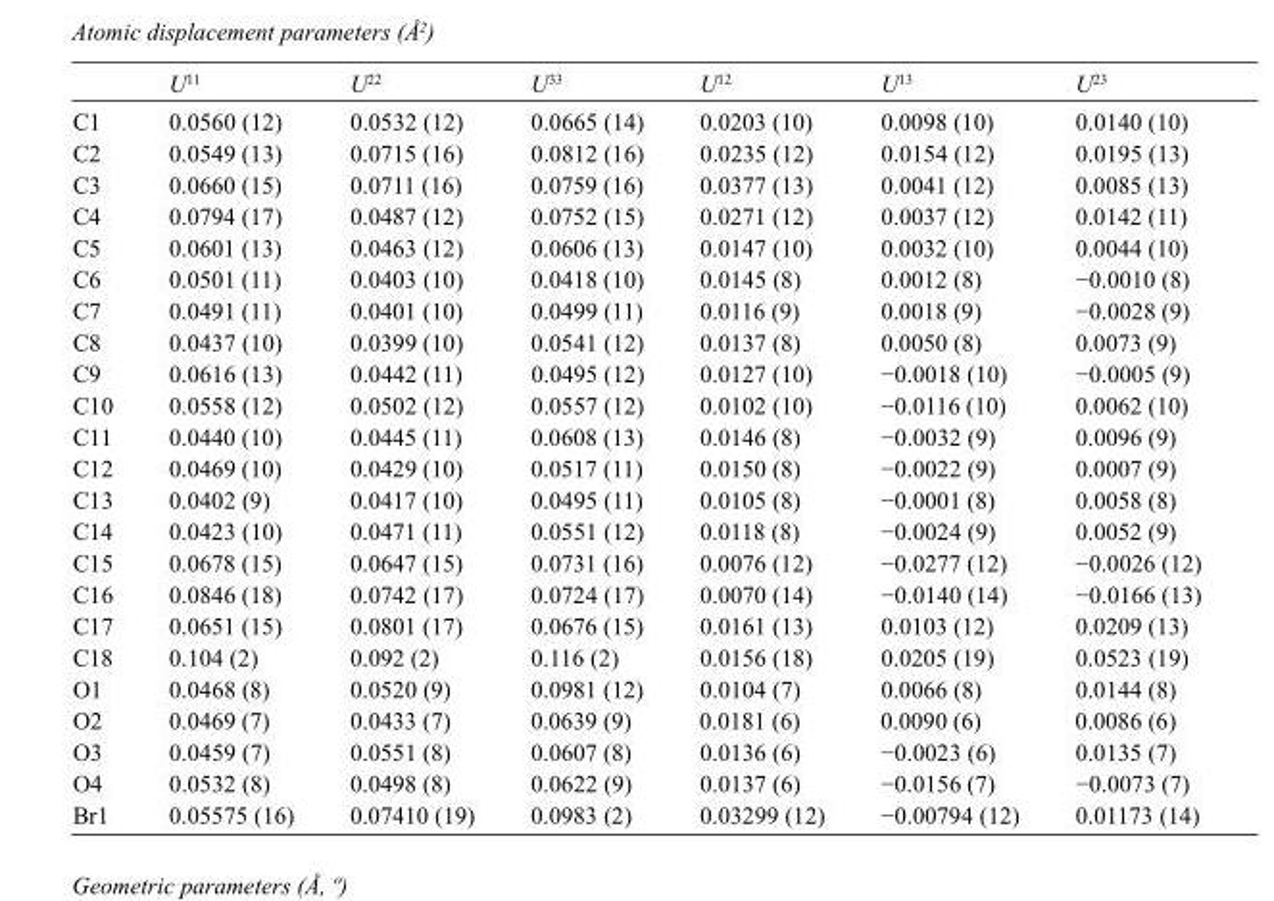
<table><thead><tr><td></td><td>U<sup>11</sup></td><td>U<sup>22</sup></td><td>U<sup>33</sup></td><td>U<sup>12</sup></td><td>U<sup>13</sup></td><td>U<sup>23</sup></td></tr></thead><tbody><tr><td>C1</td><td>0.0560 (12)</td><td>0.0532 (12)</td><td>0.0665 (14)</td><td>0.0203 (10)</td><td>0.0098 (10)</td><td>0.0140 (10)</td></tr><tr><td>C2</td><td>0.0549 (13)</td><td>0.0715 (16)</td><td>0.0812 (16)</td><td>0.0235 (12)</td><td>0.0154 (12)</td><td>0.0195 (13)</td></tr><tr><td>C3</td><td>0.0660 (15)</td><td>0.0711 (16)</td><td>0.0759 (16)</td><td>0.0377 (13)</td><td>0.0041 (12)</td><td>0.0085 (13)</td></tr><tr><td>C4</td><td>0.0794 (17)</td><td>0.0487 (12)</td><td>0.0752 (15)</td><td>0.0271 (12)</td><td>0.0037 (12)</td><td>0.0142 (11)</td></tr><tr><td>C5</td><td>0.0601 (13)</td><td>0.0463 (12)</td><td>0.0606 (13)</td><td>0.0147 (10)</td><td>0.0032 (10)</td><td>0.0044 (10)</td></tr><tr><td>C6</td><td>0.0501 (11)</td><td>0.0403 (10)</td><td>0.0418 (10)</td><td>0.0145 (8)</td><td>0.0012 (8)</td><td>−0.0010 (8)</td></tr><tr><td>C7</td><td>0.0491 (11)</td><td>0.0401 (10)</td><td>0.0499 (11)</td><td>0.0116 (9)</td><td>0.0018 (9)</td><td>−0.0028 (9)</td></tr><tr><td>C8</td><td>0.0437 (10)</td><td>0.0399 (10)</td><td>0.0541 (12)</td><td>0.0137 (8)</td><td>0.0050 (8)</td><td>0.0073 (9)</td></tr><tr><td>C9</td><td>0.0616 (13)</td><td>0.0442 (11)</td><td>0.0495 (12)</td><td>0.0127 (10)</td><td>−0.0018 (10)</td><td>−0.0005 (9)</td></tr><tr><td>C10</td><td>0.0558 (12)</td><td>0.0502 (12)</td><td>0.0557 (12)</td><td>0.0102 (10)</td><td>−0.0116 (10)</td><td>0.0062 (10)</td></tr><tr><td>C11</td><td>0.0440 (10)</td><td>0.0445 (11)</td><td>0.0608 (13)</td><td>0.0146 (8)</td><td>−0.0032 (9)</td><td>0.0096 (9)</td></tr><tr><td>C12</td><td>0.0469 (10)</td><td>0.0429 (10)</td><td>0.0517 (11)</td><td>0.0150 (8)</td><td>−0.0022 (9)</td><td>0.0007 (9)</td></tr><tr><td>C13</td><td>0.0402 (9)</td><td>0.0417 (10)</td><td>0.0495 (11)</td><td>0.0105 (8)</td><td>−0.0001 (8)</td><td>0.0058 (8)</td></tr><tr><td>C14</td><td>0.0423 (10)</td><td>0.0471 (11)</td><td>0.0551 (12)</td><td>0.0118 (8)</td><td>−0.0024 (9)</td><td>0.0052 (9)</td></tr><tr><td>C15</td><td>0.0678 (15)</td><td>0.0647 (15)</td><td>0.0731 (16)</td><td>0.0076 (12)</td><td>−0.0277 (12)</td><td>−0.0026 (12)</td></tr><tr><td>C16</td><td>0.0846 (18)</td><td>0.0742 (17)</td><td>0.0724 (17)</td><td>0.0070 (14)</td><td>−0.0140 (14)</td><td>−0.0166 (13)</td></tr><tr><td>C17</td><td>0.0651 (15)</td><td>0.0801 (17)</td><td>0.0676 (15)</td><td>0.0161 (13)</td><td>0.0103 (12)</td><td>0.0209 (13)</td></tr><tr><td>C18</td><td>0.104 (2)</td><td>0.092 (2)</td><td>0.116 (2)</td><td>0.0156 (18)</td><td>0.0205 (19)</td><td>0.0523 (19)</td></tr><tr><td>O1</td><td>0.0468 (8)</td><td>0.0520 (9)</td><td>0.0981 (12)</td><td>0.0104 (7)</td><td>0.0066 (8)</td><td>0.0144 (8)</td></tr><tr><td>O2</td><td>0.0469 (7)</td><td>0.0433 (7)</td><td>0.0639 (9)</td><td>0.0181 (6)</td><td>0.0090 (6)</td><td>0.0086 (6)</td></tr><tr><td>O3</td><td>0.0459 (7)</td><td>0.0551 (8)</td><td>0.0607 (8)</td><td>0.0136 (6)</td><td>−0.0023 (6)</td><td>0.0135 (7)</td></tr><tr><td>O4</td><td>0.0532 (8)</td><td>0.0498 (8)</td><td>0.0622 (9)</td><td>0.0137 (6)</td><td>−0.0156 (7)</td><td>−0.0073 (7)</td></tr><tr><td>Br1</td><td>0.05575 (16)</td><td>0.07410 (19)</td><td>0.0983 (2)</td><td>0.03299 (12)</td><td>−0.00794 (12)</td><td>0.01173 (14)</td></tr></tbody></table>